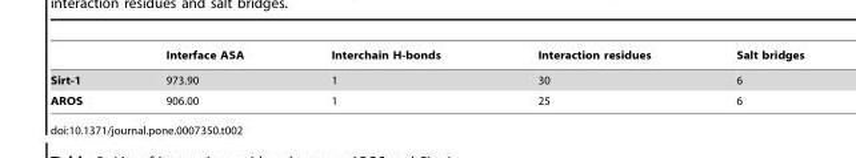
<table><thead><tr><td></td><td>Interface ASA</td><td>Interchain H-bonds</td><td>Interaction residues</td><td>Salt bridges</td></tr></thead><tbody><tr><td>Sirt-1</td><td>973.90</td><td>1</td><td>30</td><td>6</td></tr><tr><td>AROS</td><td>906.00</td><td>1</td><td>25</td><td>6</td></tr></tbody></table>